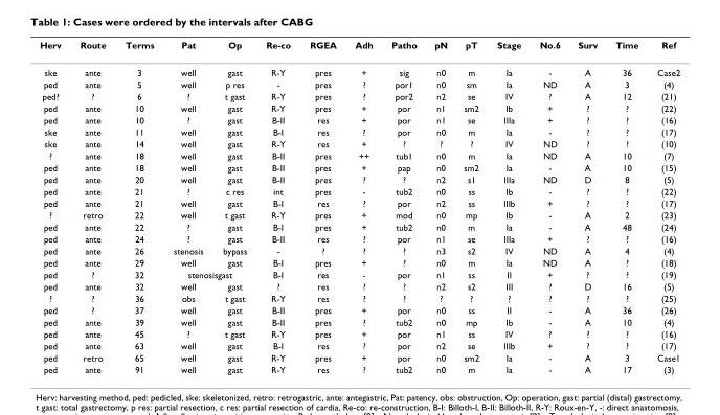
<table><thead><tr><td>Herv</td><td>Route</td><td>Terms</td><td>Pat</td><td>Op</td><td>Re-co</td><td>RGEA</td><td>Adh</td><td>Patho</td><td>pN</td><td>pT</td><td>Stage</td><td>No.6</td><td>Surv</td><td>Time</td><td>Ref</td></tr></thead><tbody><tr><td>ske</td><td>ante</td><td>3</td><td>well</td><td>gast</td><td>R-Y</td><td>pres</td><td>+</td><td>sig</td><td>n0</td><td>m</td><td>Ia</td><td>-</td><td>A</td><td>36</td><td>Case2</td></tr><tr><td>ped</td><td>ante</td><td>5</td><td>well</td><td>p res</td><td>-</td><td>pres</td><td>?</td><td>por1</td><td>n0</td><td>sm</td><td>Ia</td><td>ND</td><td>A</td><td>3</td><td>(4)</td></tr><tr><td>ped?</td><td>?</td><td>6</td><td>?</td><td>t gast</td><td>R-Y</td><td>pres</td><td>?</td><td>por2</td><td>n2</td><td>se</td><td>IV</td><td>?</td><td>A</td><td>12</td><td>(21)</td></tr><tr><td>ped</td><td>ante</td><td>10</td><td>well</td><td>gast</td><td>R-Y</td><td>pres</td><td>+</td><td>por</td><td>n1</td><td>sm2</td><td>Ib</td><td>+</td><td>?</td><td>?</td><td>(22)</td></tr><tr><td>ped</td><td>ante</td><td>10</td><td>?</td><td>gast</td><td>B-II</td><td>res</td><td>+</td><td>por</td><td>n1</td><td>se</td><td>IIIa</td><td>+</td><td>?</td><td>?</td><td>(16)</td></tr><tr><td>ske</td><td>ante</td><td>11</td><td>well</td><td>gast</td><td>B-I</td><td>res</td><td>?</td><td>por</td><td>n0</td><td>m</td><td>Ia</td><td>-</td><td>?</td><td>?</td><td>(17)</td></tr><tr><td>ske</td><td>ante</td><td>14</td><td>well</td><td>gast</td><td>R-Y</td><td>res</td><td>+</td><td>?</td><td>?</td><td>?</td><td>IV</td><td>ND</td><td>?</td><td>?</td><td>(10)</td></tr><tr><td>?</td><td>ante</td><td>18</td><td>well</td><td>gast</td><td>B-II</td><td>pres</td><td>++</td><td>tub1</td><td>n0</td><td>m</td><td>Ia</td><td>ND</td><td>A</td><td>10</td><td>(7)</td></tr><tr><td>ped</td><td>ante</td><td>18</td><td>well</td><td>gast</td><td>B-II</td><td>pres</td><td>+</td><td>pap</td><td>n0</td><td>sm2</td><td>Ia</td><td>-</td><td>A</td><td>10</td><td>(15)</td></tr><tr><td>ped</td><td>ante</td><td>20</td><td>well</td><td>gast</td><td>B-II</td><td>pres</td><td>?</td><td>?</td><td>n2</td><td>s1</td><td>IIIa</td><td>ND</td><td>D</td><td>8</td><td>(5)</td></tr><tr><td>ped</td><td>ante</td><td>21</td><td>?</td><td>c res</td><td>int</td><td>pres</td><td>-</td><td>tub2</td><td>n0</td><td>ss</td><td>Ib</td><td>-</td><td>?</td><td>?</td><td>(22)</td></tr><tr><td>ped</td><td>ante</td><td>21</td><td>well</td><td>gast</td><td>B-I</td><td>res</td><td>?</td><td>por</td><td>n2</td><td>ss</td><td>IIIb</td><td>+</td><td>?</td><td>?</td><td>(17)</td></tr><tr><td>?</td><td>retro</td><td>22</td><td>well</td><td>t gast</td><td>R-Y</td><td>pres</td><td>+</td><td>mod</td><td>n0</td><td>mp</td><td>Ib</td><td>-</td><td>A</td><td>2</td><td>(23)</td></tr><tr><td>ped</td><td>ante</td><td>22</td><td>?</td><td>gast</td><td>B-I</td><td>pres</td><td>+</td><td>tub2</td><td>n0</td><td>m</td><td>Ia</td><td>-</td><td>A</td><td>48</td><td>(24)</td></tr><tr><td>ped</td><td>ante</td><td>24</td><td>?</td><td>gast</td><td>B-II</td><td>res</td><td>?</td><td>por</td><td>n1</td><td>se</td><td>IIIa</td><td>+</td><td>?</td><td>?</td><td>(16)</td></tr><tr><td>ped</td><td>ante</td><td>26</td><td>stenosis</td><td>bypass</td><td>-</td><td>?</td><td>?</td><td>?</td><td>n3</td><td>s2</td><td>IV</td><td>ND</td><td>A</td><td>4</td><td>(4)</td></tr><tr><td>ped</td><td>ante</td><td>29</td><td>well</td><td>gast</td><td>B-I</td><td>pres</td><td>+</td><td>?</td><td>n0</td><td>m</td><td>Ia</td><td>ND</td><td>A</td><td>?</td><td>(18)</td></tr><tr><td>ped</td><td>?</td><td>32</td><td colspan="2">stenosisgast</td><td>B-I</td><td>res</td><td>-</td><td>por</td><td>n1</td><td>ss</td><td>II</td><td>+</td><td>?</td><td>?</td><td>(19)</td></tr><tr><td>ped</td><td>ante</td><td>32</td><td>well</td><td>gast</td><td>?</td><td>res</td><td>?</td><td>?</td><td>n2</td><td>s2</td><td>III</td><td>?</td><td>D</td><td>16</td><td>(5)</td></tr><tr><td>?</td><td>?</td><td>36</td><td>obs</td><td>t gast</td><td>R-Y</td><td>res</td><td>?</td><td>?</td><td>?</td><td>?</td><td>?</td><td>?</td><td>?</td><td>?</td><td>(25)</td></tr><tr><td>ped</td><td>?</td><td>37</td><td>well</td><td>gast</td><td>B-II</td><td>pres</td><td>+</td><td>por</td><td>n0</td><td>ss</td><td>II</td><td>-</td><td>A</td><td>36</td><td>(26)</td></tr><tr><td>ped</td><td>ante</td><td>39</td><td>well</td><td>gast</td><td>B-II</td><td>pres</td><td>?</td><td>tub2</td><td>n0</td><td>mp</td><td>Ib</td><td>-</td><td>A</td><td>10</td><td>(4)</td></tr><tr><td>ped</td><td>ante</td><td>45</td><td>?</td><td>t gast</td><td>R-Y</td><td>pres</td><td>+</td><td>por</td><td>n1</td><td>ss</td><td>IV</td><td>?</td><td>?</td><td>?</td><td>(16)</td></tr><tr><td>ped</td><td>ante</td><td>63</td><td>well</td><td>gast</td><td>B-I</td><td>res</td><td>?</td><td>por</td><td>n2</td><td>se</td><td>IIIb</td><td>+</td><td>?</td><td>?</td><td>(17)</td></tr><tr><td>ped</td><td>retro</td><td>65</td><td>well</td><td>gast</td><td>R-Y</td><td>pres</td><td>+</td><td>por</td><td>n0</td><td>sm2</td><td>Ia</td><td>-</td><td>A</td><td>3</td><td>Case1</td></tr><tr><td>ped</td><td>ante</td><td>91</td><td>well</td><td>gast</td><td>R-Y</td><td>res</td><td>?</td><td>tub2</td><td>n0</td><td>m</td><td>Ia</td><td>-</td><td>A</td><td>17</td><td>(3)</td></tr></tbody></table>